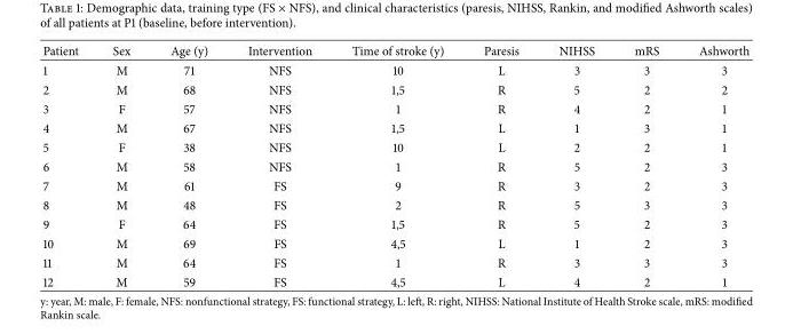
<table><thead><tr><td>Patient</td><td>Sex</td><td>Age (y)</td><td>Intervention</td><td>Time of stroke (y)</td><td>Paresis</td><td>NIHSS</td><td>mRS</td><td>Ashworth</td></tr></thead><tbody><tr><td>1</td><td>M</td><td>71</td><td>NFS</td><td>10</td><td>L</td><td>3</td><td>3</td><td>3</td></tr><tr><td>2</td><td>M</td><td>68</td><td>NFS</td><td>1,5</td><td>R</td><td>5</td><td>2</td><td>2</td></tr><tr><td>3</td><td>F</td><td>57</td><td>NFS</td><td>1</td><td>R</td><td>4</td><td>2</td><td>1</td></tr><tr><td>4</td><td>M</td><td>67</td><td>NFS</td><td>1,5</td><td>L</td><td>1</td><td>3</td><td>1</td></tr><tr><td>5</td><td>F</td><td>38</td><td>NFS</td><td>10</td><td>L</td><td>2</td><td>2</td><td>1</td></tr><tr><td>6</td><td>M</td><td>58</td><td>NFS</td><td>1</td><td>R</td><td>5</td><td>2</td><td>3</td></tr><tr><td>7</td><td>M</td><td>61</td><td>FS</td><td>9</td><td>R</td><td>3</td><td>2</td><td>3</td></tr><tr><td>8</td><td>M</td><td>48</td><td>FS</td><td>2</td><td>R</td><td>5</td><td>3</td><td>3</td></tr><tr><td>9</td><td>F</td><td>64</td><td>FS</td><td>1,5</td><td>R</td><td>5</td><td>2</td><td>3</td></tr><tr><td>10</td><td>M</td><td>69</td><td>FS</td><td>4,5</td><td>L</td><td>1</td><td>2</td><td>3</td></tr><tr><td>11</td><td>M</td><td>64</td><td>FS</td><td>1</td><td>R</td><td>3</td><td>3</td><td>3</td></tr><tr><td>12</td><td>M</td><td>59</td><td>FS</td><td>4,5</td><td>L</td><td>4</td><td>2</td><td>1</td></tr></tbody></table>